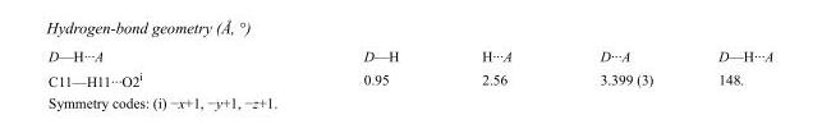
<table><tbody><tr><td>D—H···A</td><td>D—H</td><td>H···A</td><td>D···A</td><td>D—H···A</td></tr><tr><td>C11—H11···O2<sup>i</sup></td><td>0.95</td><td>2.56</td><td>3.399 (3)</td><td>148.</td></tr></tbody></table>